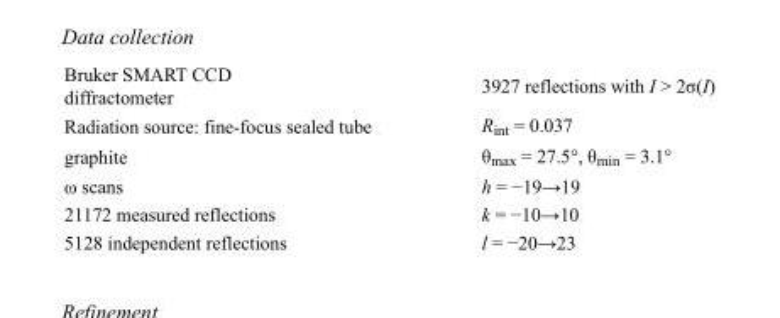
<table><tbody><tr><td>Bruker SMART CCD diffractometer</td><td>3927 reflections with I &gt; 2σ(I)</td></tr><tr><td>Radiation source: fine-focus sealed tube</td><td>R<sub>int</sub> = 0.037</td></tr><tr><td>graphite</td><td>θ<sub>max</sub> = 27.5°, θ<sub>min</sub> = 3.1°</td></tr><tr><td>ω scans</td><td>h = −19→19</td></tr><tr><td>21172 measured reflections</td><td>k = −10→10</td></tr><tr><td>5128 independent reflections</td><td>l = −20→23</td></tr></tbody></table>